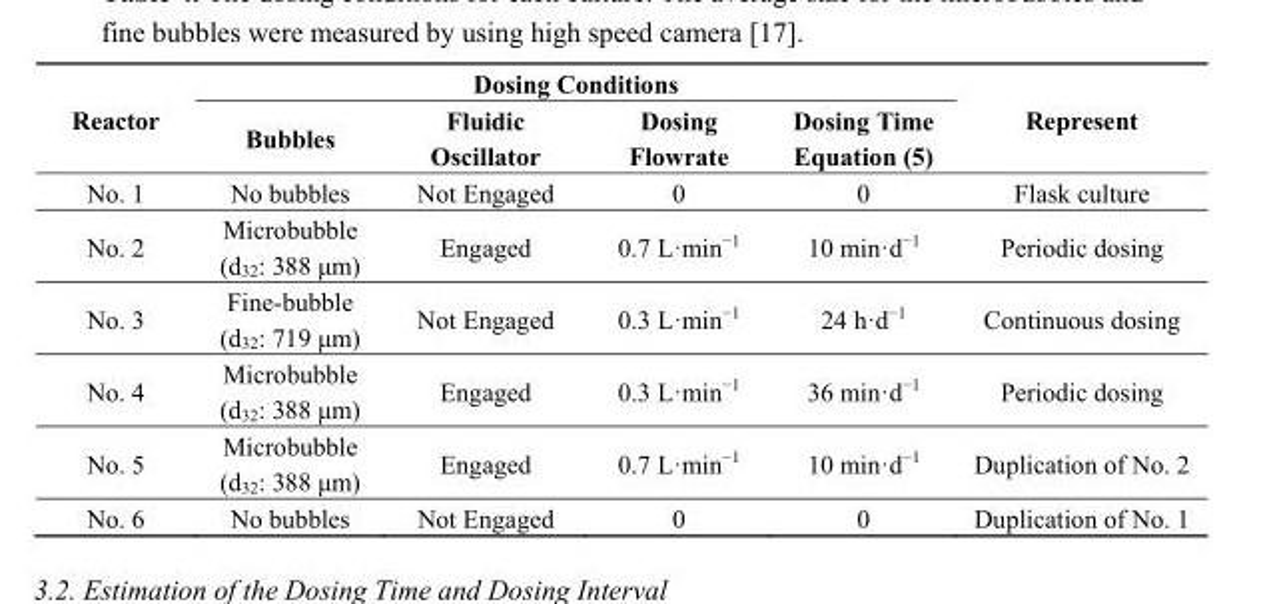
<table><thead><tr><td rowspan="2">Reactor</td><td colspan="4">Dosing Conditions</td><td rowspan="2">Represent</td></tr><tr><td>Bubbles</td><td>Fluidic Oscillator</td><td>Dosing Flowrate</td><td>Dosing Time Equation (5)</td></tr></thead><tbody><tr><td>No. 1</td><td>No bubbles</td><td>Not Engaged</td><td>0</td><td>0</td><td>Flask culture</td></tr><tr><td>No. 2</td><td>Microbubble (d<sub>32</sub>: 388 μm)</td><td>Engaged</td><td>0.7 L·min<sup>−1</sup></td><td>10 min·d<sup>−1</sup></td><td>Periodic dosing</td></tr><tr><td>No. 3</td><td>Fine-bubble (d<sub>32</sub>: 719 μm)</td><td>Not Engaged</td><td>0.3 L·min<sup>−1</sup></td><td>24 h·d<sup>−1</sup></td><td>Continuous dosing</td></tr><tr><td>No. 4</td><td>Microbubble (d<sub>32</sub>: 388 μm)</td><td>Engaged</td><td>0.3 L·min<sup>−1</sup></td><td>36 min·d<sup>−1</sup></td><td>Periodic dosing</td></tr><tr><td>No. 5</td><td>Microbubble (d<sub>32</sub>: 388 μm)</td><td>Engaged</td><td>0.7 L·min<sup>−1</sup></td><td>10 min·d<sup>−1</sup></td><td>Duplication of No. 2</td></tr><tr><td>No. 6</td><td>No bubbles</td><td>Not Engaged</td><td>0</td><td>0</td><td>Duplication of No. 1</td></tr></tbody></table>